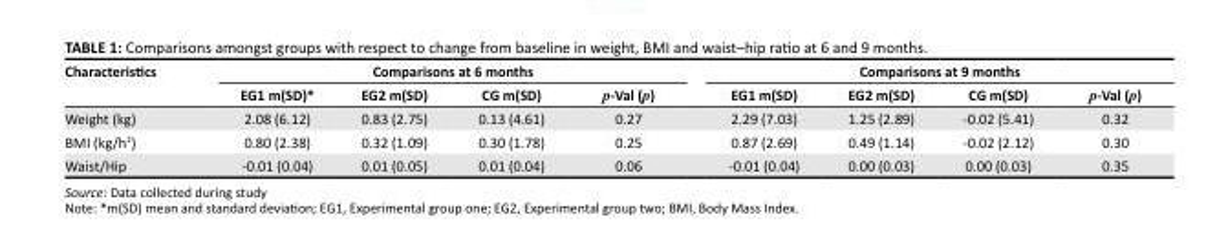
<table><thead><tr><td rowspan="2">Characteristics</td><td colspan="4">Comparisons at 6 months</td><td colspan="4">Comparisons at 9 months</td></tr><tr><td>EG1 m(SD)*</td><td>EG2 m(SD)</td><td>CG m(SD)</td><td>p-Val (p)</td><td>EG1 m(SD)</td><td>EG2 m(SD)</td><td>CG m(SD)</td><td>p-Val (p)</td></tr></thead><tbody><tr><td>Weight (kg)</td><td>2.08 (6.12)</td><td>0.83 (2.75)</td><td>0.13 (4.61)</td><td>0.27</td><td>2.29 (7.03)</td><td>1.25 (2.89)</td><td>-0.02 (5.41)</td><td>0.32</td></tr><tr><td>BMI (kg/h<sup>2</sup>)</td><td>0.80 (2.38)</td><td>0.32 (1.09)</td><td>0.30 (1.78)</td><td>0.25</td><td>0.87 (2.69)</td><td>0.49 (1.14)</td><td>-0.02 (2.12)</td><td>0.30</td></tr><tr><td>Waist/Hip</td><td>-0.01 (0.04)</td><td>0.01 (0.05)</td><td>0.01 (0.04)</td><td>0.06</td><td>-0.01 (0.04)</td><td>0.00 (0.03)</td><td>0.00 (0.03)</td><td>0.35</td></tr></tbody></table>